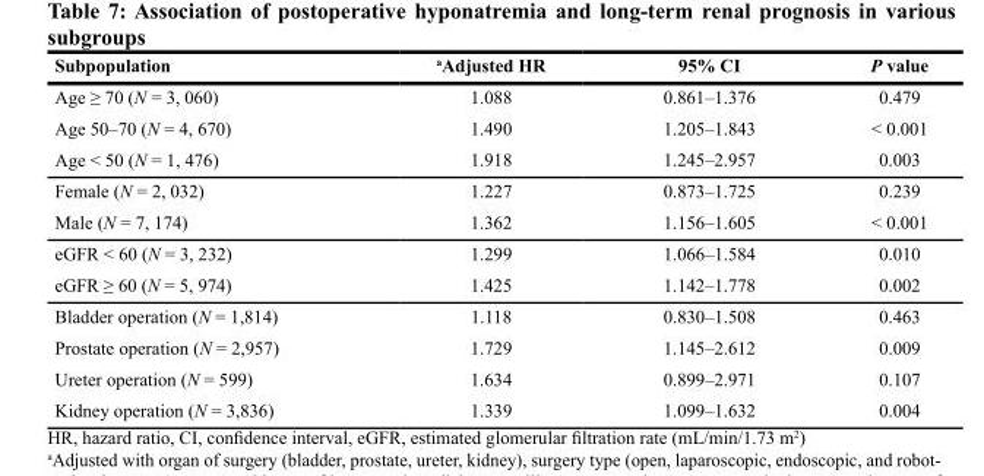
<table><thead><tr><td>Subpopulation</td><td><sup>a</sup>Adjusted HR</td><td>95% CI</td><td>P value</td></tr></thead><tbody><tr><td>Age ≥ 70 (N = 3, 060)</td><td>1.088</td><td>0.861–1.376</td><td>0.479</td></tr><tr><td>Age 50–70 (N = 4, 670)</td><td>1.490</td><td>1.205–1.843</td><td>&lt; 0.001</td></tr><tr><td>Age &lt; 50 (N = 1, 476)</td><td>1.918</td><td>1.245–2.957</td><td>0.003</td></tr><tr><td>Female (N = 2, 032)</td><td>1.227</td><td>0.873–1.725</td><td>0.239</td></tr><tr><td>Male (N = 7, 174)</td><td>1.362</td><td>1.156–1.605</td><td>&lt; 0.001</td></tr><tr><td>eGFR &lt; 60 (N = 3, 232)</td><td>1.299</td><td>1.066–1.584</td><td>0.010</td></tr><tr><td>eGFR ≥ 60 (N = 5, 974)</td><td>1.425</td><td>1.142–1.778</td><td>0.002</td></tr><tr><td>Bladder operation (N = 1,814)</td><td>1.118</td><td>0.830–1.508</td><td>0.463</td></tr><tr><td>Prostate operation (N = 2,957)</td><td>1.729</td><td>1.145–2.612</td><td>0.009</td></tr><tr><td>Ureter operation (N = 599)</td><td>1.634</td><td>0.899–2.971</td><td>0.107</td></tr><tr><td>Kidney operation (N = 3,836)</td><td>1.339</td><td>1.099–1.632</td><td>0.004</td></tr></tbody></table>